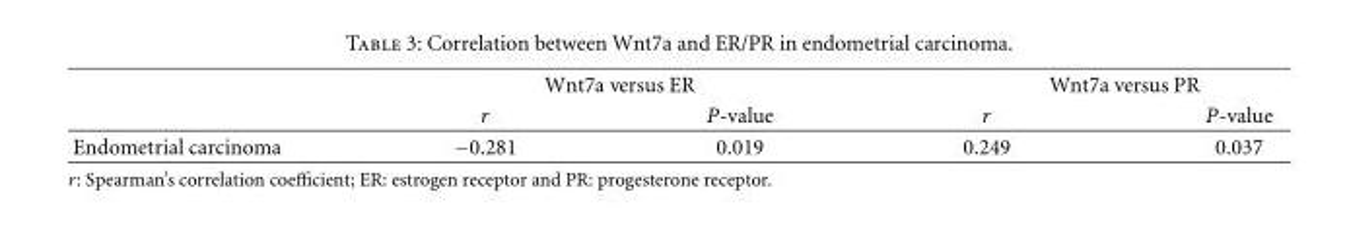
<table><thead><tr><td rowspan="2"></td><td colspan="2">Wnt7a versus ER</td><td colspan="2">Wnt7a versus PR</td></tr><tr><td>r</td><td>P-value</td><td>r</td><td>P-value</td></tr></thead><tbody><tr><td>Endometrial carcinoma</td><td>−0.281</td><td>0.019</td><td>0.249</td><td>0.037</td></tr></tbody></table>